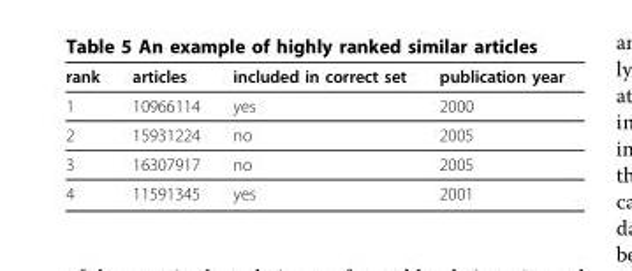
<table><thead><tr><td>rank</td><td>articles</td><td>included in correct set</td><td>publication year</td></tr></thead><tbody><tr><td>1</td><td>10966114</td><td>yes</td><td>2000</td></tr><tr><td>2</td><td>15931224</td><td>no</td><td>2005</td></tr><tr><td>3</td><td>16307917</td><td>no</td><td>2005</td></tr><tr><td>4</td><td>11591345</td><td>yes</td><td>2001</td></tr></tbody></table>